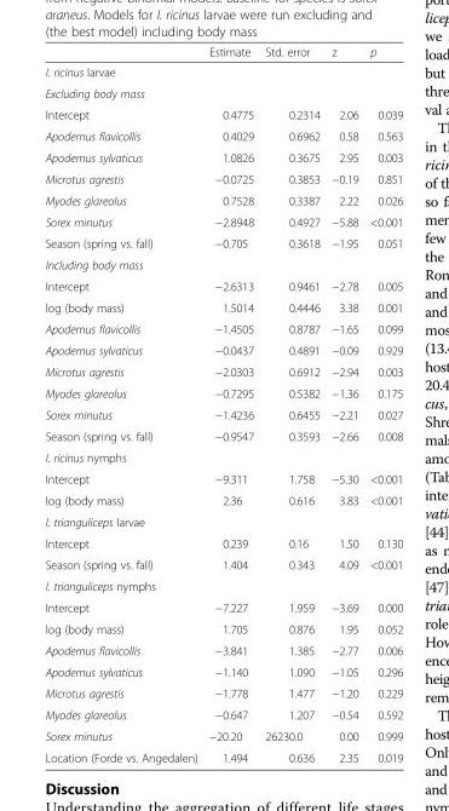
<table><thead><tr><td></td><td>Estimate</td><td>Std. error</td><td>z</td><td>p</td></tr></thead><tbody><tr><td colspan="5">I. ricinus larvae</td></tr><tr><td colspan="5">Excluding body mass</td></tr><tr><td>Intercept</td><td>0.4775</td><td>0.2314</td><td>2.06</td><td>0.039</td></tr><tr><td>Apodemus flavicollis</td><td>0.4029</td><td>0.6962</td><td>0.58</td><td>0.563</td></tr><tr><td>Apodemus sylvaticus</td><td>1.0826</td><td>0.3675</td><td>2.95</td><td>0.003</td></tr><tr><td>Microtus agrestis</td><td>−0.0725</td><td>0.3853</td><td>−0.19</td><td>0.851</td></tr><tr><td>Myodes glareolus</td><td>0.7528</td><td>0.3387</td><td>2.22</td><td>0.026</td></tr><tr><td>Sorex minutus</td><td>−2.8948</td><td>0.4927</td><td>−5.88</td><td>&lt;0.001</td></tr><tr><td>Season (spring vs. fall)</td><td>−0.705</td><td>0.3618</td><td>−1.95</td><td>0.051</td></tr><tr><td colspan="5">Including body mass</td></tr><tr><td>Intercept</td><td>−2.6313</td><td>0.9461</td><td>−2.78</td><td>0.005</td></tr><tr><td>log (body mass)</td><td>1.5014</td><td>0.4446</td><td>3.38</td><td>0.001</td></tr><tr><td>Apodemus flavicollis</td><td>−1.4505</td><td>0.8787</td><td>−1.65</td><td>0.099</td></tr><tr><td>Apodemus sylvaticus</td><td>−0.0437</td><td>0.4891</td><td>−0.09</td><td>0.929</td></tr><tr><td>Microtus agrestis</td><td>−2.0303</td><td>0.6912</td><td>−2.94</td><td>0.003</td></tr><tr><td>Myodes glareolus</td><td>−0.7295</td><td>0.5382</td><td>−1.36</td><td>0.175</td></tr><tr><td>Sorex minutus</td><td>−1.4236</td><td>0.6455</td><td>−2.21</td><td>0.027</td></tr><tr><td>Season (spring vs. fall)</td><td>−0.9547</td><td>0.3593</td><td>−2.66</td><td>0.008</td></tr><tr><td colspan="5">I. ricinus nymphs</td></tr><tr><td>Intercept</td><td>−9.311</td><td>1.758</td><td>−5.30</td><td>&lt;0.001</td></tr><tr><td>log (body mass)</td><td>2.36</td><td>0.616</td><td>3.83</td><td>&lt;0.001</td></tr><tr><td colspan="5">I. trianguliceps larvae</td></tr><tr><td>Intercept</td><td>0.239</td><td>0.16</td><td>1.50</td><td>0.130</td></tr><tr><td>Season (spring vs. fall)</td><td>1.404</td><td>0.343</td><td>4.09</td><td>&lt;0.001</td></tr><tr><td colspan="5">I. trianguliceps nymphs</td></tr><tr><td>Intercept</td><td>−7.227</td><td>1.959</td><td>−3.69</td><td>0.000</td></tr><tr><td>log (body mass)</td><td>1.705</td><td>0.876</td><td>1.95</td><td>0.052</td></tr><tr><td>Apodemus flavicollis</td><td>−3.841</td><td>1.385</td><td>−2.77</td><td>0.006</td></tr><tr><td>Apodemus sylvaticus</td><td>−1.140</td><td>1.090</td><td>−1.05</td><td>0.296</td></tr><tr><td>Microtus agrestis</td><td>−1.778</td><td>1.477</td><td>−1.20</td><td>0.229</td></tr><tr><td>Myodes glareolus</td><td>−0.647</td><td>1.207</td><td>−0.54</td><td>0.592</td></tr><tr><td>Sorex minutus</td><td>−20.20</td><td>26230.0</td><td>0.00</td><td>0.999</td></tr><tr><td>Location (Forde vs. Angedalen)</td><td>1.494</td><td>0.636</td><td>2.35</td><td>0.019</td></tr></tbody></table>